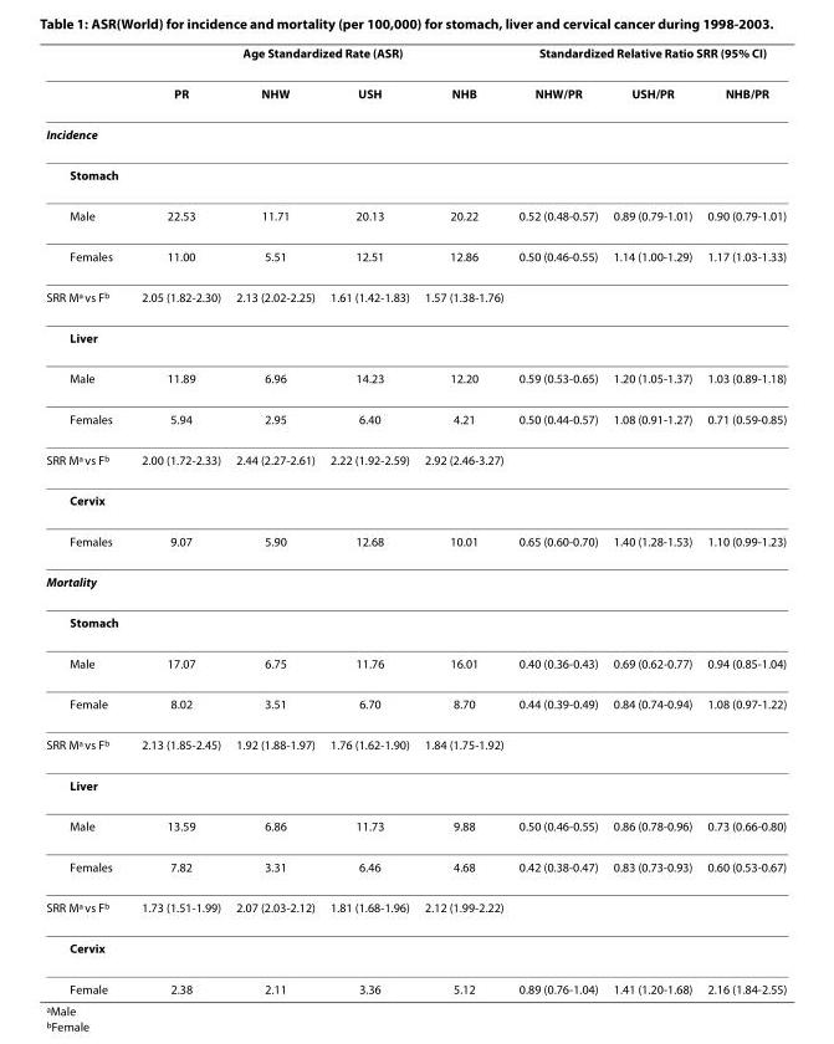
<table><thead><tr><td rowspan="2"></td><td colspan="4">Age Standardized Rate (ASR)</td><td colspan="3">Standardized Relative Ratio SRR (95% CI)</td></tr><tr><td>PR</td><td>NHW</td><td>USH</td><td>NHB</td><td>NHW/PR</td><td>USH/PR</td><td>NHB/PR</td></tr></thead><tbody><tr><td colspan="8">Incidence</td></tr><tr><td colspan="8">Stomach</td></tr><tr><td>Male</td><td>22.53</td><td>11.71</td><td>20.13</td><td>20.22</td><td>0.52 (0.48-0.57)</td><td>0.89 (0.79-1.01)</td><td>0.90 (0.79-1.01)</td></tr><tr><td>Females</td><td>11.00</td><td>5.51</td><td>12.51</td><td>12.86</td><td>0.50 (0.46-0.55)</td><td>1.14 (1.00-1.29)</td><td>1.17 (1.03-1.33)</td></tr><tr><td>SRR M<sup>a</sup> vs F<sup>b</sup></td><td>2.05 (1.82-2.30)</td><td>2.13 (2.02-2.25)</td><td>1.61 (1.42-1.83)</td><td>1.57 (1.38-1.76)</td><td></td><td></td><td></td></tr><tr><td colspan="8">Liver</td></tr><tr><td>Male</td><td>11.89</td><td>6.96</td><td>14.23</td><td>12.20</td><td>0.59 (0.53-0.65)</td><td>1.20 (1.05-1.37)</td><td>1.03 (0.89-1.18)</td></tr><tr><td>Females</td><td>5.94</td><td>2.95</td><td>6.40</td><td>4.21</td><td>0.50 (0.44-0.57)</td><td>1.08 (0.91-1.27)</td><td>0.71 (0.59-0.85)</td></tr><tr><td>SRR M<sup>a</sup> vs F<sup>b</sup></td><td>2.00 (1.72-2.33)</td><td>2.44 (2.27-2.61)</td><td>2.22 (1.92-2.59)</td><td>2.92 (2.46-3.27)</td><td></td><td></td><td></td></tr><tr><td colspan="8">Cervix</td></tr><tr><td>Females</td><td>9.07</td><td>5.90</td><td>12.68</td><td>10.01</td><td>0.65 (0.60-0.70)</td><td>1.40 (1.28-1.53)</td><td>1.10 (0.99-1.23)</td></tr><tr><td colspan="8">Mortality</td></tr><tr><td colspan="8">Stomach</td></tr><tr><td>Male</td><td>17.07</td><td>6.75</td><td>11.76</td><td>16.01</td><td>0.40 (0.36-0.43)</td><td>0.69 (0.62-0.77)</td><td>0.94 (0.85-1.04)</td></tr><tr><td>Female</td><td>8.02</td><td>3.51</td><td>6.70</td><td>8.70</td><td>0.44 (0.39-0.49)</td><td>0.84 (0.74-0.94)</td><td>1.08 (0.97-1.22)</td></tr><tr><td>SRR M<sup>a</sup> vs F<sup>b</sup></td><td>2.13 (1.85-2.45)</td><td>1.92 (1.88-1.97)</td><td>1.76 (1.62-1.90)</td><td>1.84 (1.75-1.92)</td><td></td><td></td><td></td></tr><tr><td colspan="8">Liver</td></tr><tr><td>Male</td><td>13.59</td><td>6.86</td><td>11.73</td><td>9.88</td><td>0.50 (0.46-0.55)</td><td>0.86 (0.78-0.96)</td><td>0.73 (0.66-0.80)</td></tr><tr><td>Females</td><td>7.82</td><td>3.31</td><td>6.46</td><td>4.68</td><td>0.42 (0.38-0.47)</td><td>0.83 (0.73-0.93)</td><td>0.60 (0.53-0.67)</td></tr><tr><td>SRR M<sup>a</sup> vs F<sup>b</sup></td><td>1.73 (1.51-1.99)</td><td>2.07 (2.03-2.12)</td><td>1.81 (1.68-1.96)</td><td>2.12 (1.99-2.22)</td><td></td><td></td><td></td></tr><tr><td colspan="8">Cervix</td></tr><tr><td>Female</td><td>2.38</td><td>2.11</td><td>3.36</td><td>5.12</td><td>0.89 (0.76-1.04)</td><td>1.41 (1.20-1.68)</td><td>2.16 (1.84-2.55)</td></tr></tbody></table>